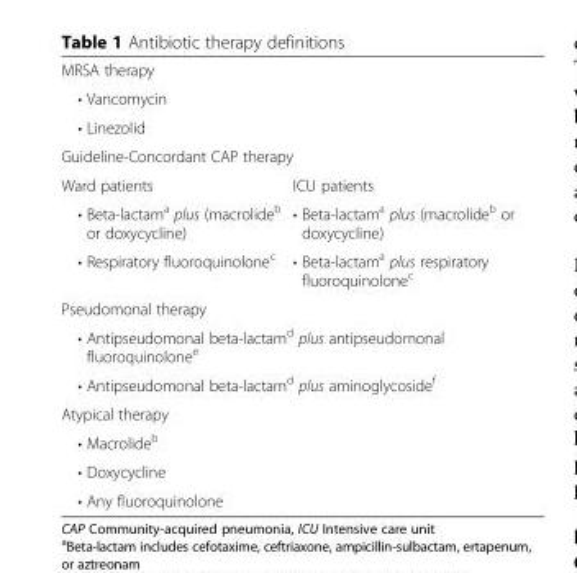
<table><tbody><tr><td colspan="2">MRSA therapy</td></tr><tr><td colspan="2">• Vancomycin</td></tr><tr><td colspan="2">• Linezolid</td></tr><tr><td colspan="2">Guideline-Concordant CAP therapy</td></tr><tr><td>Ward patients</td><td>ICU patients</td></tr><tr><td>• Beta-lactam<sup>a</sup> plus (macrolide<sup>b</sup> or doxycycline)</td><td>• Beta-lactam<sup>a</sup> plus (macrolide<sup>b</sup> or doxycycline)</td></tr><tr><td>• Respiratory fluoroquinolone<sup>c</sup></td><td>• Beta-lactam<sup>a</sup> plus respiratory fluoroquinolone<sup>c</sup></td></tr><tr><td colspan="2">Pseudomonal therapy</td></tr><tr><td colspan="2">• Antipseudomonal beta-lactam<sup>d</sup> plus antipseudomonal fluoroquinolone<sup>e</sup></td></tr><tr><td colspan="2">• Antipseudomonal beta-lactam<sup>d</sup> plus aminoglycoside<sup>f</sup></td></tr><tr><td colspan="2">Atypical therapy</td></tr><tr><td colspan="2">• Macrolide<sup>b</sup></td></tr><tr><td colspan="2">• Doxycycline</td></tr><tr><td colspan="2">• Any fluoroquinolone</td></tr></tbody></table>